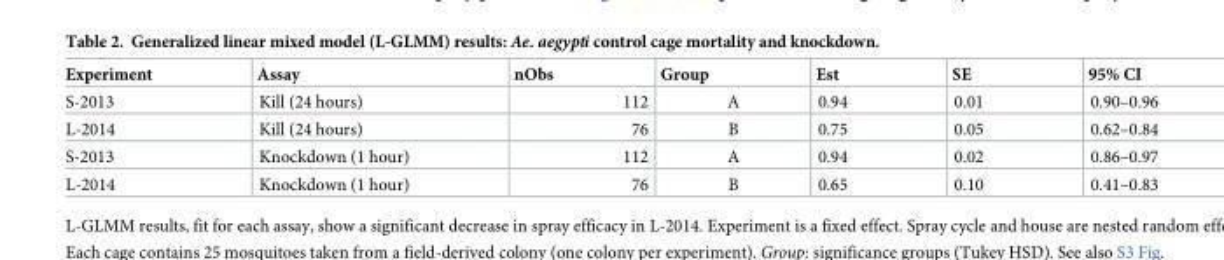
<table><thead><tr><td>Experiment</td><td>Assay</td><td>nObs</td><td>Group</td><td>Est</td><td>SE</td><td>95% CI</td></tr></thead><tbody><tr><td>S-2013</td><td>Kill (24 hours)</td><td>112</td><td>A</td><td>0.94</td><td>0.01</td><td>0.90–0.96</td></tr><tr><td>L-2014</td><td>Kill (24 hours)</td><td>76</td><td>B</td><td>0.75</td><td>0.05</td><td>0.62–0.84</td></tr><tr><td>S-2013</td><td>Knockdown (1 hour)</td><td>112</td><td>A</td><td>0.94</td><td>0.02</td><td>0.86–0.97</td></tr><tr><td>L-2014</td><td>Knockdown (1 hour)</td><td>76</td><td>B</td><td>0.65</td><td>0.10</td><td>0.41–0.83</td></tr></tbody></table>